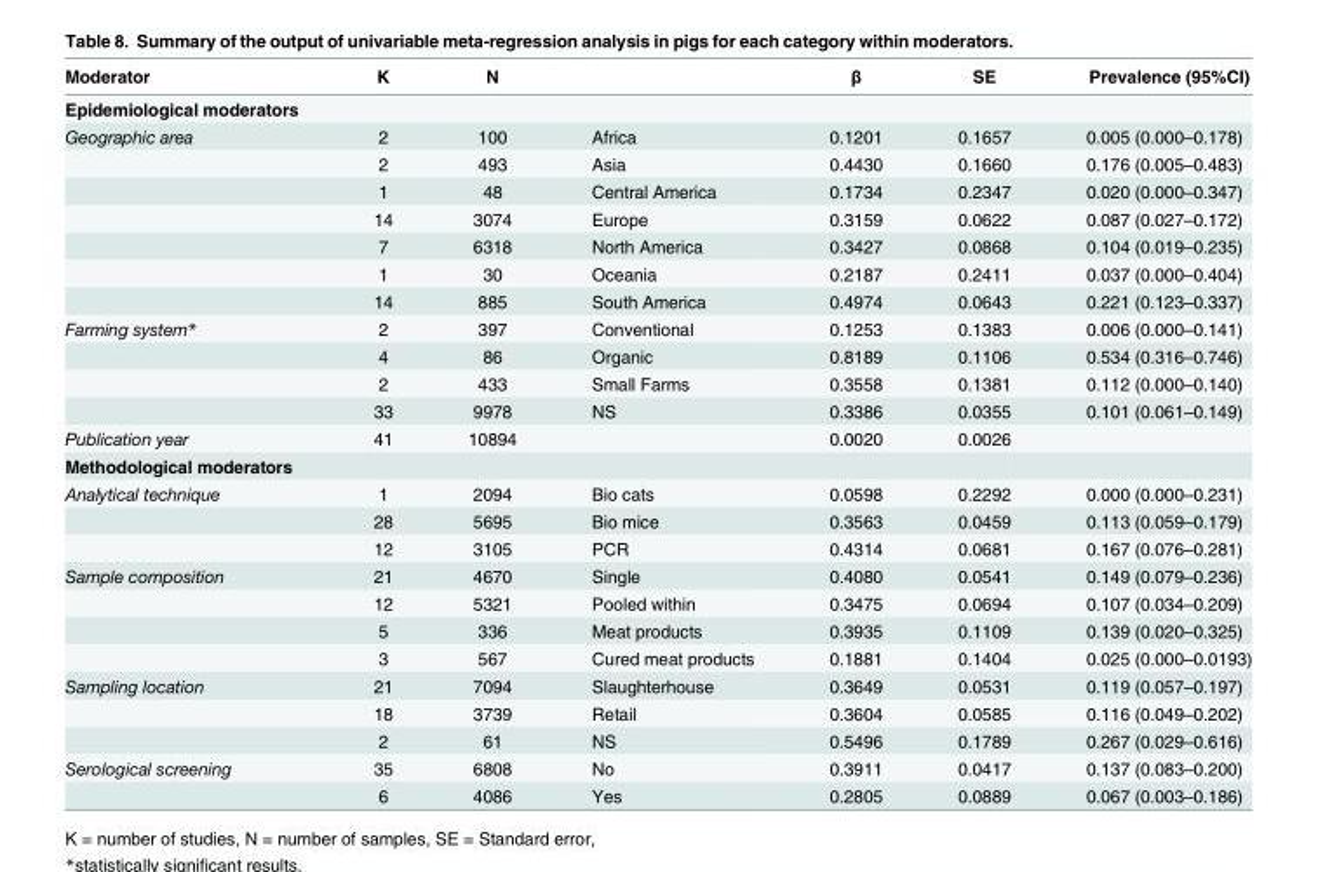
<table><thead><tr><td>Moderator</td><td>K</td><td>N</td><td></td><td>β</td><td>SE</td><td>Prevalence (95%CI)</td></tr></thead><tbody><tr><td colspan="7">Epidemiological moderators</td></tr><tr><td rowspan="7">Geographic area</td><td>2</td><td>100</td><td>Africa</td><td>0.1201</td><td>0.1657</td><td>0.005 (0.000–0.178)</td></tr><tr><td>2</td><td>493</td><td>Asia</td><td>0.4430</td><td>0.1660</td><td>0.176 (0.005–0.483)</td></tr><tr><td>1</td><td>48</td><td>Central America</td><td>0.1734</td><td>0.2347</td><td>0.020 (0.000–0.347)</td></tr><tr><td>14</td><td>3074</td><td>Europe</td><td>0.3159</td><td>0.0622</td><td>0.087 (0.027–0.172)</td></tr><tr><td>7</td><td>6318</td><td>North America</td><td>0.3427</td><td>0.0868</td><td>0.104 (0.019–0.235)</td></tr><tr><td>1</td><td>30</td><td>Oceania</td><td>0.2187</td><td>0.2411</td><td>0.037 (0.000–0.404)</td></tr><tr><td>14</td><td>885</td><td>South America</td><td>0.4974</td><td>0.0643</td><td>0.221 (0.123–0.337)</td></tr><tr><td rowspan="4">Farming system*</td><td>2</td><td>397</td><td>Conventional</td><td>0.1253</td><td>0.1383</td><td>0.006 (0.000–0.141)</td></tr><tr><td>4</td><td>86</td><td>Organic</td><td>0.8189</td><td>0.1106</td><td>0.534 (0.316–0.746)</td></tr><tr><td>2</td><td>433</td><td>Small Farms</td><td>0.3558</td><td>0.1381</td><td>0.112 (0.000–0.140)</td></tr><tr><td>33</td><td>9978</td><td>NS</td><td>0.3386</td><td>0.0355</td><td>0.101 (0.061–0.149)</td></tr><tr><td>Publication year</td><td>41</td><td>10894</td><td></td><td>0.0020</td><td>0.0026</td><td></td></tr><tr><td colspan="7">Methodological moderators</td></tr><tr><td rowspan="3">Analytical technique</td><td>1</td><td>2094</td><td>Bio cats</td><td>0.0598</td><td>0.2292</td><td>0.000 (0.000–0.231)</td></tr><tr><td>28</td><td>5695</td><td>Bio mice</td><td>0.3563</td><td>0.0459</td><td>0.113 (0.059–0.179)</td></tr><tr><td>12</td><td>3105</td><td>PCR</td><td>0.4314</td><td>0.0681</td><td>0.167 (0.076–0.281)</td></tr><tr><td rowspan="4">Sample composition</td><td>21</td><td>4670</td><td>Single</td><td>0.4080</td><td>0.0541</td><td>0.149 (0.079–0.236)</td></tr><tr><td>12</td><td>5321</td><td>Pooled within</td><td>0.3475</td><td>0.0694</td><td>0.107 (0.034–0.209)</td></tr><tr><td>5</td><td>336</td><td>Meat products</td><td>0.3935</td><td>0.1109</td><td>0.139 (0.020–0.325)</td></tr><tr><td>3</td><td>567</td><td>Cured meat products</td><td>0.1881</td><td>0.1404</td><td>0.025 (0.000–0.0193)</td></tr><tr><td rowspan="3">Sampling location</td><td>21</td><td>7094</td><td>Slaughterhouse</td><td>0.3649</td><td>0.0531</td><td>0.119 (0.057–0.197)</td></tr><tr><td>18</td><td>3739</td><td>Retail</td><td>0.3604</td><td>0.0585</td><td>0.116 (0.049–0.202)</td></tr><tr><td>2</td><td>61</td><td>NS</td><td>0.5496</td><td>0.1789</td><td>0.267 (0.029–0.616)</td></tr><tr><td rowspan="2">Serological screening</td><td>35</td><td>6808</td><td>No</td><td>0.3911</td><td>0.0417</td><td>0.137 (0.083–0.200)</td></tr><tr><td>6</td><td>4086</td><td>Yes</td><td>0.2805</td><td>0.0889</td><td>0.067 (0.003–0.186)</td></tr></tbody></table>